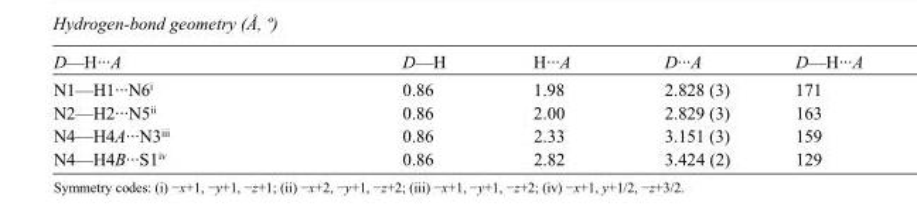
<table><tbody><tr><td>D—H···A</td><td>D—H</td><td>H···A</td><td>D···A</td><td>D—H···A</td></tr><tr><td>N1—H1···N6<sup>i</sup></td><td>0.86</td><td>1.98</td><td>2.828 (3)</td><td>171</td></tr><tr><td>N2—H2···N5<sup>ii</sup></td><td>0.86</td><td>2.00</td><td>2.829 (3)</td><td>163</td></tr><tr><td>N4—H4A···N3<sup>iii</sup></td><td>0.86</td><td>2.33</td><td>3.151 (3)</td><td>159</td></tr><tr><td>N4—H4B···S1<sup>iv</sup></td><td>0.86</td><td>2.82</td><td>3.424 (2)</td><td>129</td></tr></tbody></table>